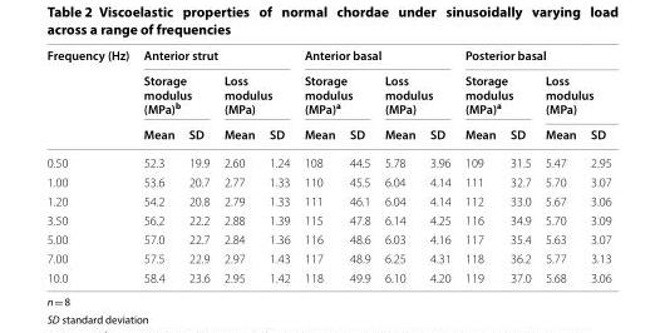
<table><thead><tr><td rowspan="3">Frequency (Hz)</td><td colspan="4">Anterior strut</td><td colspan="4">Anterior basal</td><td colspan="4">Posterior basal</td></tr><tr><td colspan="2">Storage modulus (MPa)<sup>b</sup></td><td colspan="2">Loss modulus (MPa)</td><td colspan="2">Storage modulus (MPa)<sup>a</sup></td><td colspan="2">Loss modulus (MPa)</td><td colspan="2">Storage modulus (MPa)<sup>a</sup></td><td colspan="2">Loss modulus (MPa)</td></tr><tr><td>Mean</td><td>SD</td><td>Mean</td><td>SD</td><td>Mean</td><td>SD</td><td>Mean</td><td>SD</td><td>Mean</td><td>SD</td><td>Mean</td><td>SD</td></tr></thead><tbody><tr><td>0.50</td><td>52.3</td><td>19.9</td><td>2.60</td><td>1.24</td><td>108</td><td>44.5</td><td>5.78</td><td>3.96</td><td>109</td><td>31.5</td><td>5.47</td><td>2.95</td></tr><tr><td>1.00</td><td>53.6</td><td>20.7</td><td>2.77</td><td>1.33</td><td>110</td><td>45.5</td><td>6.04</td><td>4.14</td><td>111</td><td>32.7</td><td>5.70</td><td>3.07</td></tr><tr><td>1.20</td><td>54.2</td><td>20.8</td><td>2.79</td><td>1.33</td><td>111</td><td>46.1</td><td>6.04</td><td>4.14</td><td>112</td><td>33.0</td><td>5.67</td><td>3.06</td></tr><tr><td>3.50</td><td>56.2</td><td>22.2</td><td>2.88</td><td>1.39</td><td>115</td><td>47.8</td><td>6.14</td><td>4.25</td><td>116</td><td>34.9</td><td>5.70</td><td>3.09</td></tr><tr><td>5.00</td><td>57.0</td><td>22.7</td><td>2.84</td><td>1.36</td><td>116</td><td>48.6</td><td>6.03</td><td>4.16</td><td>117</td><td>35.4</td><td>5.63</td><td>3.07</td></tr><tr><td>7.00</td><td>57.5</td><td>22.9</td><td>2.97</td><td>1.43</td><td>117</td><td>48.9</td><td>6.25</td><td>4.31</td><td>118</td><td>36.2</td><td>5.77</td><td>3.13</td></tr><tr><td>10.0</td><td>58.4</td><td>23.6</td><td>2.95</td><td>1.42</td><td>118</td><td>49.9</td><td>6.10</td><td>4.20</td><td>119</td><td>37.0</td><td>5.68</td><td>3.06</td></tr></tbody></table>